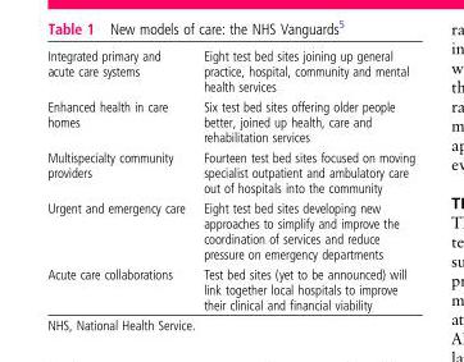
<table><tbody><tr><td>Integrated primary and acute care systems</td><td>Eight test bed sites joining up general practice, hospital, community and mental health services</td></tr><tr><td>Enhanced health in care homes</td><td>Six test bed sites offering older people better, joined up health, care and rehabilitation services</td></tr><tr><td>Multispecialty community providers</td><td>Fourteen test bed sites focused on moving specialist outpatient and ambulatory care out of hospitals into the community</td></tr><tr><td>Urgent and emergency care</td><td>Eight test bed sites developing new approaches to simplify and improve the coordination of services and reduce pressure on emergency departments</td></tr><tr><td>Acute care collaborations</td><td>Test bed sites (yet to be announced) will link together local hospitals to improve their clinical and financial viability</td></tr></tbody></table>